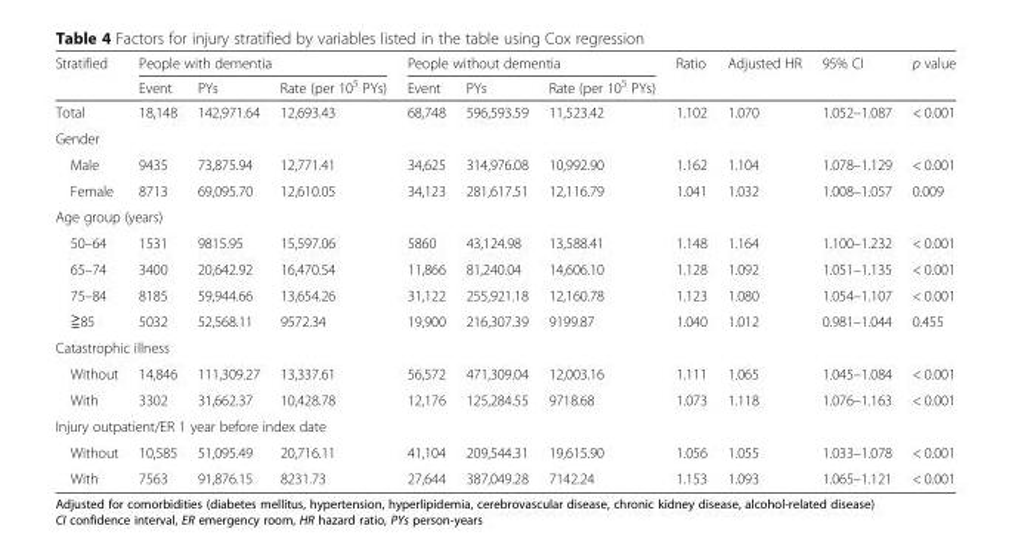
<table><thead><tr><td rowspan="2">Stratified</td><td colspan="3">People with dementia</td><td colspan="3">People without dementia</td><td rowspan="2">Ratio</td><td rowspan="2">Adjusted HR</td><td rowspan="2">95% CI</td><td rowspan="2">p value</td></tr><tr><td>Event</td><td>PYs</td><td>Rate (per 10<sup>5</sup> PYs)</td><td>Event</td><td>PYs</td><td>Rate (per 10<sup>5</sup> PYs)</td></tr></thead><tbody><tr><td>Total</td><td>18,148</td><td>142,971.64</td><td>12,693.43</td><td>68,748</td><td>596,593.59</td><td>11,523.42</td><td>1.102</td><td>1.070</td><td>1.052–1.087</td><td>&lt; 0.001</td></tr><tr><td colspan="11">Gender</td></tr><tr><td>Male</td><td>9435</td><td>73,875.94</td><td>12,771.41</td><td>34,625</td><td>314,976.08</td><td>10,992.90</td><td>1.162</td><td>1.104</td><td>1.078–1.129</td><td>&lt; 0.001</td></tr><tr><td>Female</td><td>8713</td><td>69,095.70</td><td>12,610.05</td><td>34,123</td><td>281,617.51</td><td>12,116.79</td><td>1.041</td><td>1.032</td><td>1.008–1.057</td><td>0.009</td></tr><tr><td colspan="11">Age group (years)</td></tr><tr><td>50–64</td><td>1531</td><td>9815.95</td><td>15,597.06</td><td>5860</td><td>43,124.98</td><td>13,588.41</td><td>1.148</td><td>1.164</td><td>1.100–1.232</td><td>&lt; 0.001</td></tr><tr><td>65–74</td><td>3400</td><td>20,642.92</td><td>16,470.54</td><td>11,866</td><td>81,240.04</td><td>14,606.10</td><td>1.128</td><td>1.092</td><td>1.051–1.135</td><td>&lt; 0.001</td></tr><tr><td>75–84</td><td>8185</td><td>59,944.66</td><td>13,654.26</td><td>31,122</td><td>255,921.18</td><td>12,160.78</td><td>1.123</td><td>1.080</td><td>1.054–1.107</td><td>&lt; 0.001</td></tr><tr><td>≧85</td><td>5032</td><td>52,568.11</td><td>9572.34</td><td>19,900</td><td>216,307.39</td><td>9199.87</td><td>1.040</td><td>1.012</td><td>0.981–1.044</td><td>0.455</td></tr><tr><td colspan="11">Catastrophic illness</td></tr><tr><td>Without</td><td>14,846</td><td>111,309.27</td><td>13,337.61</td><td>56,572</td><td>471,309.04</td><td>12,003.16</td><td>1.111</td><td>1.065</td><td>1.045–1.084</td><td>&lt; 0.001</td></tr><tr><td>With</td><td>3302</td><td>31,662.37</td><td>10,428.78</td><td>12,176</td><td>125,284.55</td><td>9718.68</td><td>1.073</td><td>1.118</td><td>1.076–1.163</td><td>&lt; 0.001</td></tr><tr><td colspan="11">Injury outpatient/ER 1 year before index date</td></tr><tr><td>Without</td><td>10,585</td><td>51,095.49</td><td>20,716.11</td><td>41,104</td><td>209,544.31</td><td>19,615.90</td><td>1.056</td><td>1.055</td><td>1.033–1.078</td><td>&lt; 0.001</td></tr><tr><td>With</td><td>7563</td><td>91,876.15</td><td>8231.73</td><td>27,644</td><td>387,049.28</td><td>7142.24</td><td>1.153</td><td>1.093</td><td>1.065–1.121</td><td>&lt; 0.001</td></tr></tbody></table>